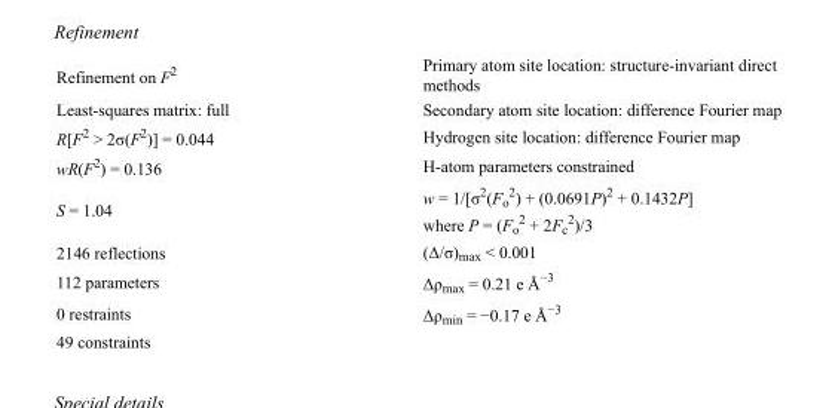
<table><tbody><tr><td>Refinement on F<sup>2</sup></td><td>Primary atom site location: structure-invariant direct methods</td></tr><tr><td>Least-squares matrix: full</td><td>Secondary atom site location: difference Fourier map</td></tr><tr><td>R[F<sup>2</sup> &gt; 2σ(F<sup>2</sup>)] = 0.044</td><td>Hydrogen site location: difference Fourier map</td></tr><tr><td>wR(F<sup>2</sup>) = 0.136</td><td>H-atom parameters constrained</td></tr><tr><td>S = 1.04</td><td>w = 1/[σ<sup>2</sup>(F<sub>o</sub> <sup>2</sup>) + (0.0691P)<sup>2</sup> + 0.1432P] where P = (F<sub>o</sub> <sup>2</sup> + 2F<sub>c</sub> <sup>2</sup>)/3</td></tr><tr><td>2146 reflections</td><td>(Δ/σ)<sub>max</sub> &lt; 0.001</td></tr><tr><td>112 parameters</td><td>Δρ<sub>max</sub> = 0.21 e Å<sup>−3</sup></td></tr><tr><td>0 restraints</td><td>Δρ<sub>min</sub> = −0.17 e Å<sup>−3</sup></td></tr><tr><td>49 constraints</td><td></td></tr></tbody></table>